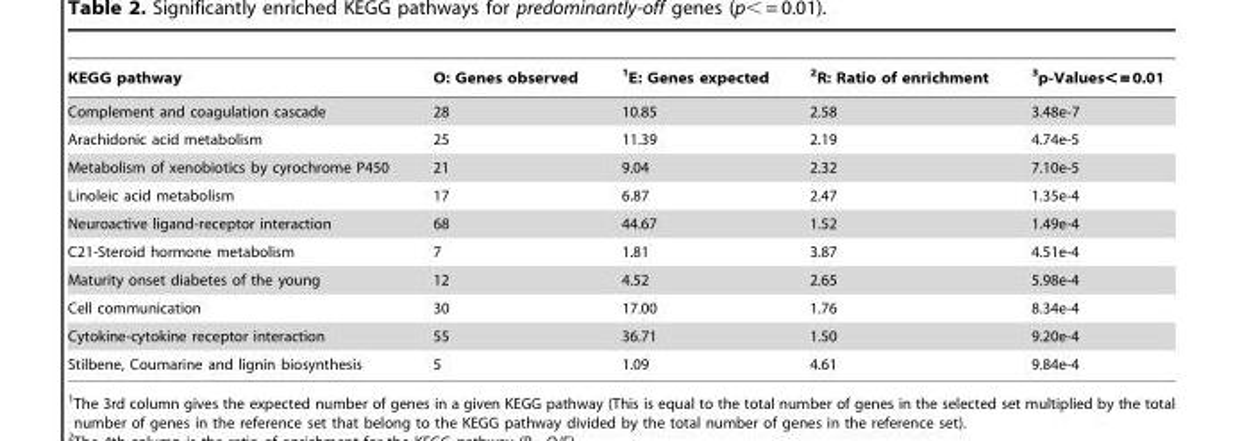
<table><thead><tr><td>KEGG pathway</td><td>O: Genes observed</td><td>1E: Genes expected</td><td>2R: Ratio of enrichment</td><td>3p-Values&lt; = 0.01</td></tr></thead><tbody><tr><td>Complement and coagulation cascade</td><td>28</td><td>10.85</td><td>2.58</td><td>3.48e-7</td></tr><tr><td>Arachidonic acid metabolism</td><td>25</td><td>11.39</td><td>2.19</td><td>4.74e-5</td></tr><tr><td>Metabolism of xenobiotics by cyrochrome P450</td><td>21</td><td>9.04</td><td>2.32</td><td>7.10e-5</td></tr><tr><td>Linoleic acid metabolism</td><td>17</td><td>6.87</td><td>2.47</td><td>1.35e-4</td></tr><tr><td>Neuroactive ligand-receptor interaction</td><td>68</td><td>44.67</td><td>1.52</td><td>1.49e-4</td></tr><tr><td>C21-Steroid hormone metabolism</td><td>7</td><td>1.81</td><td>3.87</td><td>4.51e-4</td></tr><tr><td>Maturity onset diabetes of the young</td><td>12</td><td>4.52</td><td>2.65</td><td>5.98e-4</td></tr><tr><td>Cell communication</td><td>30</td><td>17.00</td><td>1.76</td><td>8.34e-4</td></tr><tr><td>Cytokine-cytokine receptor interaction</td><td>55</td><td>36.71</td><td>1.50</td><td>9.20e-4</td></tr><tr><td>Stilbene, Coumarine and lignin biosynthesis</td><td>5</td><td>1.09</td><td>4.61</td><td>9.84e-4</td></tr></tbody></table>